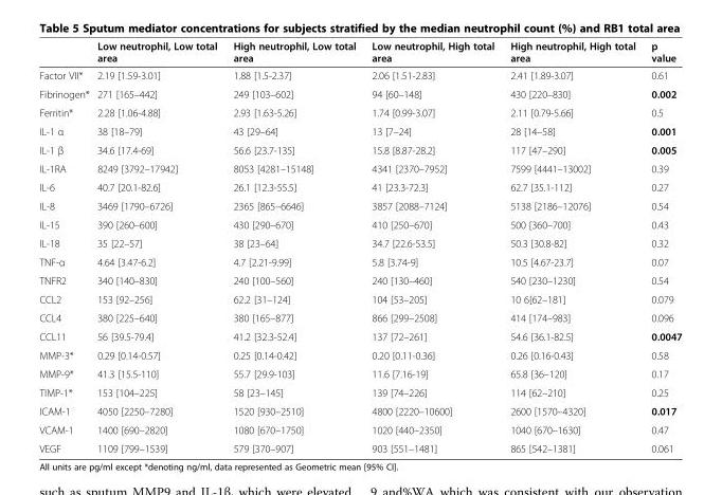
<table><thead><tr><td></td><td>Low neutrophil, Low total area</td><td>High neutrophil, Low total area</td><td>Low neutrophil, High total area</td><td>High neutrophil, High total area</td><td>p value</td></tr></thead><tbody><tr><td>Factor VII*</td><td>2.19 [1.59-3.01]</td><td>1.88 [1.5-2.37]</td><td>2.06 [1.51-2.83]</td><td>2.41 [1.89-3.07]</td><td>0.61</td></tr><tr><td>Fibrinogen*</td><td>271 [165–442]</td><td>249 [103–602]</td><td>94 [60–148]</td><td>430 [220–830]</td><td>0.002</td></tr><tr><td>Ferritin*</td><td>2.28 [1.06-4.88]</td><td>2.93 [1.63-5.26]</td><td>1.74 [0.99-3.07]</td><td>2.11 [0.79-5.66]</td><td>0.5</td></tr><tr><td>IL-1 α</td><td>38 [18–79]</td><td>43 [29–64]</td><td>13 [7–24]</td><td>28 [14–58]</td><td>0.001</td></tr><tr><td>IL-1 β</td><td>34.6 [17.4-69]</td><td>56.6 [23.7-135]</td><td>15.8 [8.87-28.2]</td><td>117 [47–290]</td><td>0.005</td></tr><tr><td>IL-1RA</td><td>8249 [3792–17942]</td><td>8053 [4281–15148]</td><td>4341 [2370–7952]</td><td>7599 [4441–13002]</td><td>0.39</td></tr><tr><td>IL-6</td><td>40.7 [20.1-82.6]</td><td>26.1 [12.3-55.5]</td><td>41 [23.3-72.3]</td><td>62.7 [35.1-112]</td><td>0.27</td></tr><tr><td>IL-8</td><td>3469 [1790–6726]</td><td>2365 [865–6646]</td><td>3857 [2088–7124]</td><td>5138 [2186–12076]</td><td>0.54</td></tr><tr><td>IL-15</td><td>390 [260–600]</td><td>430 [290–670]</td><td>410 [250–670]</td><td>500 [360–700]</td><td>0.43</td></tr><tr><td>IL-18</td><td>35 [22–57]</td><td>38 [23–64]</td><td>34.7 [22.6-53.5]</td><td>50.3 [30.8-82]</td><td>0.32</td></tr><tr><td>TNF-α</td><td>4.64 [3.47-6.2]</td><td>4.7 [2.21-9.99]</td><td>5.8 [3.74-9]</td><td>10.5 [4.67-23.7]</td><td>0.07</td></tr><tr><td>TNFR2</td><td>340 [140–830]</td><td>240 [100–560]</td><td>240 [130–460]</td><td>540 [230–1230]</td><td>0.54</td></tr><tr><td>CCL2</td><td>153 [92–256]</td><td>62.2 [31–124]</td><td>104 [53–205]</td><td>10 6[62–181]</td><td>0.079</td></tr><tr><td>CCL4</td><td>380 [225–640]</td><td>380 [165–877]</td><td>866 [299–2508]</td><td>414 [174–983]</td><td>0.096</td></tr><tr><td>CCL11</td><td>56 [39.5-79.4]</td><td>41.2 [32.3-52.4]</td><td>137 [72–261]</td><td>54.6 [36.1-82.5]</td><td>0.0047</td></tr><tr><td>MMP-3*</td><td>0.29 [0.14-0.57]</td><td>0.25 [0.14-0.42]</td><td>0.20 [0.11-0.36]</td><td>0.26 [0.16-0.43]</td><td>0.58</td></tr><tr><td>MMP-9*</td><td>41.3 [15.5-110]</td><td>55.7 [29.9-103]</td><td>11.6 [7.16-19]</td><td>65.8 [36–120]</td><td>0.17</td></tr><tr><td>TIMP-1*</td><td>153 [104–225]</td><td>58 [23–145]</td><td>139 [74–226]</td><td>114 [62–210]</td><td>0.25</td></tr><tr><td>ICAM-1</td><td>4050 [2250–7280]</td><td>1520 [930–2510]</td><td>4800 [2220–10600]</td><td>2600 [1570–4320]</td><td>0.017</td></tr><tr><td>VCAM-1</td><td>1400 [690–2820]</td><td>1080 [670–1750]</td><td>1020 [440–2350]</td><td>1040 [670–1630]</td><td>0.47</td></tr><tr><td>VEGF</td><td>1109 [799–1539]</td><td>579 [370–907]</td><td>903 [551–1481]</td><td>865 [542–1381]</td><td>0.061</td></tr></tbody></table>